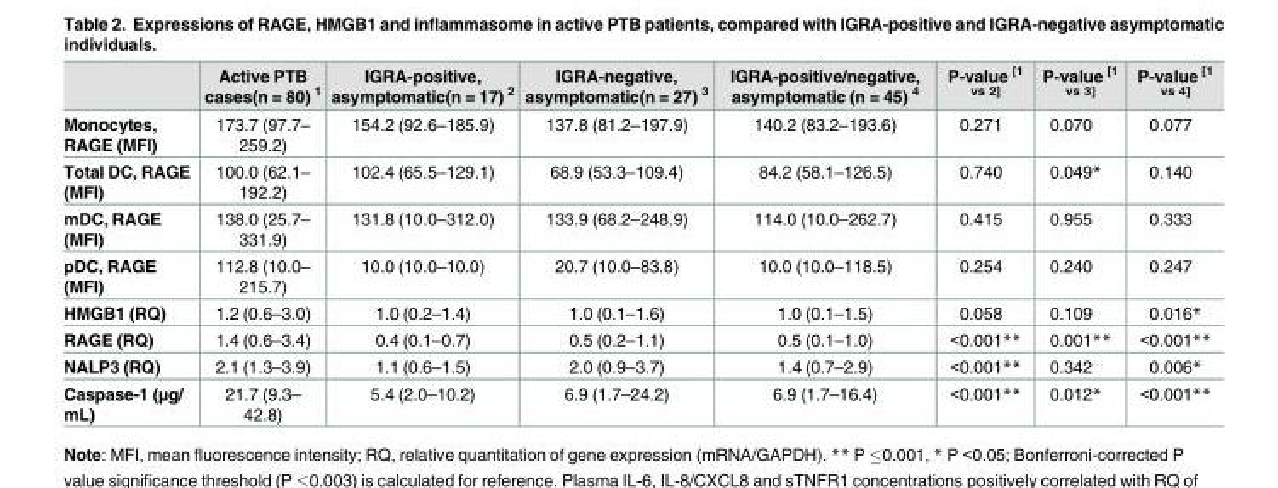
<table><thead><tr><td></td><td>Active PTB cases(n = 80) <sup>1</sup></td><td>IGRA-positive, asymptomatic(n = 17) <sup>2</sup></td><td>IGRA-negative, asymptomatic(n = 27) <sup>3</sup></td><td>IGRA-positive/negative, asymptomatic (n = 45) <sup>4</sup></td><td>P-value <sup>[1 vs 2]</sup></td><td>P-value <sup>[1 vs 3]</sup></td><td>P-value <sup>[1 vs 4]</sup></td></tr></thead><tbody><tr><td>Monocytes, RAGE (MFI)</td><td>173.7 (97.7– 259.2)</td><td>154.2 (92.6–185.9)</td><td>137.8 (81.2–197.9)</td><td>140.2 (83.2–193.6)</td><td>0.271</td><td>0.070</td><td>0.077</td></tr><tr><td>Total DC, RAGE (MFI)</td><td>100.0 (62.1– 192.2)</td><td>102.4 (65.5–129.1)</td><td>68.9 (53.3–109.4)</td><td>84.2 (58.1–126.5)</td><td>0.740</td><td>0.049*</td><td>0.140</td></tr><tr><td>mDC, RAGE (MFI)</td><td>138.0 (25.7– 331.9)</td><td>131.8 (10.0–312.0)</td><td>133.9 (68.2–248.9)</td><td>114.0 (10.0–262.7)</td><td>0.415</td><td>0.955</td><td>0.333</td></tr><tr><td>pDC, RAGE (MFI)</td><td>112.8 (10.0– 215.7)</td><td>10.0 (10.0–10.0)</td><td>20.7 (10.0–83.8)</td><td>10.0 (10.0–118.5)</td><td>0.254</td><td>0.240</td><td>0.247</td></tr><tr><td>HMGB1 (RQ)</td><td>1.2 (0.6–3.0)</td><td>1.0 (0.2–1.4)</td><td>1.0 (0.1–1.6)</td><td>1.0 (0.1–1.5)</td><td>0.058</td><td>0.109</td><td>0.016*</td></tr><tr><td>RAGE (RQ)</td><td>1.4 (0.6–3.4)</td><td>0.4 (0.1–0.7)</td><td>0.5 (0.2–1.1)</td><td>0.5 (0.1–1.0)</td><td>&lt;0.001**</td><td>0.001**</td><td>&lt;0.001**</td></tr><tr><td>NALP3 (RQ)</td><td>2.1 (1.3–3.9)</td><td>1.1 (0.6–1.5)</td><td>2.0 (0.9–3.7)</td><td>1.4 (0.7–2.9)</td><td>&lt;0.001**</td><td>0.342</td><td>0.006*</td></tr><tr><td>Caspase-1 (μg/ mL)</td><td>21.7 (9.3– 42.8)</td><td>5.4 (2.0–10.2)</td><td>6.9 (1.7–24.2)</td><td>6.9 (1.7–16.4)</td><td>&lt;0.001**</td><td>0.012*</td><td>&lt;0.001**</td></tr></tbody></table>